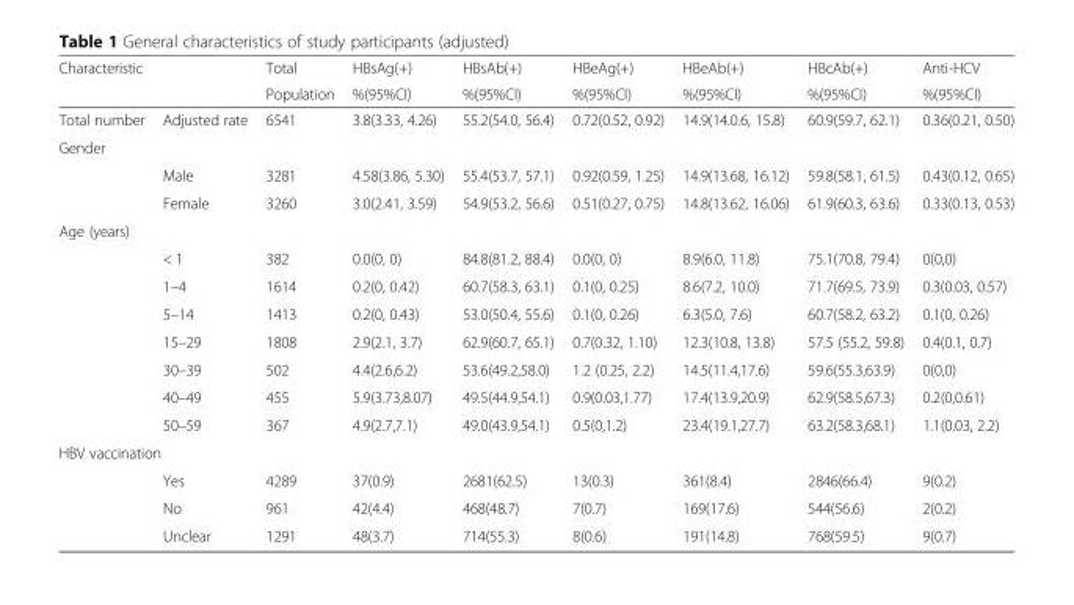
<table><thead><tr><td rowspan="2">Characteristic</td><td rowspan="2"></td><td rowspan="2">Total Population</td><td rowspan="2">HBsAg(+) %(95%CI)</td><td rowspan="2">HBsAb(+) %(95%CI)</td><td rowspan="2">HBeAg(+) %(95%CI)</td><td rowspan="2">HBeAb(+) %(95%CI)</td><td rowspan="2">HBcAb(+) %(95%CI)</td><td rowspan="2">Anti-HCV %(95%CI)</td></tr><tr></tr></thead><tbody><tr><td>Total number</td><td>Adjusted rate</td><td>6541</td><td>3.8(3.33, 4.26)</td><td>55.2(54.0, 56.4)</td><td>0.72(0.52, 0.92)</td><td>14.9(14.0.6, 15.8)</td><td>60.9(59.7, 62.1)</td><td>0.36(0.21, 0.50)</td></tr><tr><td colspan="9">Gender</td></tr><tr><td rowspan="2"></td><td>Male</td><td>3281</td><td>4.58(3.86, 5.30)</td><td>55.4(53.7, 57.1)</td><td>0.92(0.59, 1.25)</td><td>14.9(13.68, 16.12)</td><td>59.8(58.1, 61.5)</td><td>0.43(0.12, 0.65)</td></tr><tr><td>Female</td><td>3260</td><td>3.0(2.41, 3.59)</td><td>54.9(53.2, 56.6)</td><td>0.51(0.27, 0.75)</td><td>14.8(13.62, 16.06)</td><td>61.9(60.3, 63.6)</td><td>0.33(0.13, 0.53)</td></tr><tr><td colspan="9">Age (years)</td></tr><tr><td rowspan="7"></td><td>&lt; 1</td><td>382</td><td>0.0(0, 0)</td><td>84.8(81.2, 88.4)</td><td>0.0(0, 0)</td><td>8.9(6.0, 11.8)</td><td>75.1(70.8, 79.4)</td><td>0(0,0)</td></tr><tr><td>1–4</td><td>1614</td><td>0.2(0, 0.42)</td><td>60.7(58.3, 63.1)</td><td>0.1(0, 0.25)</td><td>8.6(7.2, 10.0)</td><td>71.7(69.5, 73.9)</td><td>0.3(0.03, 0.57)</td></tr><tr><td>5–14</td><td>1413</td><td>0.2(0, 0.43)</td><td>53.0(50.4, 55.6)</td><td>0.1(0, 0.26)</td><td>6.3(5.0, 7.6)</td><td>60.7(58.2, 63.2)</td><td>0.1(0, 0.26)</td></tr><tr><td>15–29</td><td>1808</td><td>2.9(2.1, 3.7)</td><td>62.9(60.7, 65.1)</td><td>0.7(0.32, 1.10)</td><td>12.3(10.8, 13.8)</td><td>57.5 (55.2, 59.8)</td><td>0.4(0.1, 0.7)</td></tr><tr><td>30–39</td><td>502</td><td>4.4(2.6,6.2)</td><td>53.6(49.2,58.0)</td><td>1.2 (0.25, 2.2)</td><td>14.5(11.4,17.6)</td><td>59.6(55.3,63.9)</td><td>0(0,0)</td></tr><tr><td>40–49</td><td>455</td><td>5.9(3.73,8.07)</td><td>49.5(44.9,54.1)</td><td>0.9(0.03,1.77)</td><td>17.4(13.9,20.9)</td><td>62.9(58.5,67.3)</td><td>0.2(0,0.61)</td></tr><tr><td>50–59</td><td>367</td><td>4.9(2.7,7.1)</td><td>49.0(43.9,54.1)</td><td>0.5(0,1.2)</td><td>23.4(19.1,27.7)</td><td>63.2(58.3,68.1)</td><td>1.1(0.03, 2.2)</td></tr><tr><td colspan="9">HBV vaccination</td></tr><tr><td rowspan="3"></td><td>Yes</td><td>4289</td><td>37(0.9)</td><td>2681(62.5)</td><td>13(0.3)</td><td>361(8.4)</td><td>2846(66.4)</td><td>9(0.2)</td></tr><tr><td>No</td><td>961</td><td>42(4.4)</td><td>468(48.7)</td><td>7(0.7)</td><td>169(17.6)</td><td>544(56.6)</td><td>2(0.2)</td></tr><tr><td>Unclear</td><td>1291</td><td>48(3.7)</td><td>714(55.3)</td><td>8(0.6)</td><td>191(14.8)</td><td>768(59.5)</td><td>9(0.7)</td></tr></tbody></table>